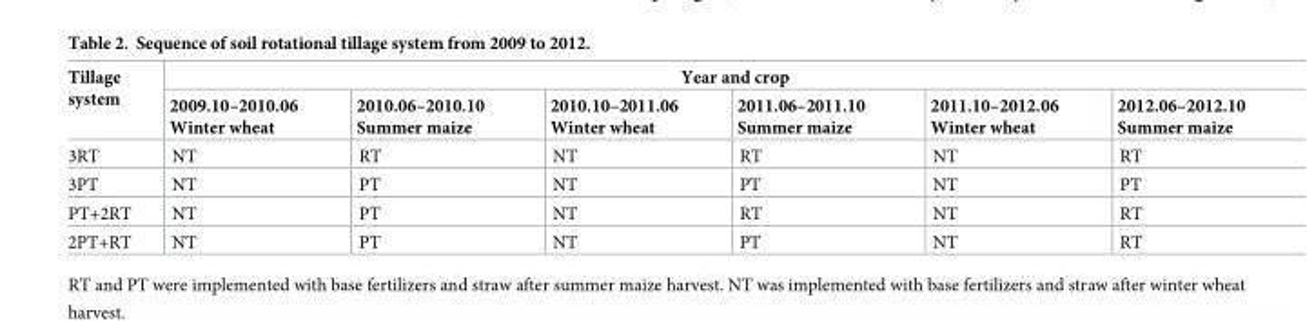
<table><thead><tr><td rowspan="2">Tillage system</td><td colspan="6">Year and crop</td></tr><tr><td>2009.10–2010.06 Winter wheat</td><td>2010.06–2010.10 Summer maize</td><td>2010.10–2011.06 Winter wheat</td><td>2011.06–2011.10 Summer maize</td><td>2011.10–2012.06 Winter wheat</td><td>2012.06–2012.10 Summer maize</td></tr></thead><tbody><tr><td>3RT</td><td>NT</td><td>RT</td><td>NT</td><td>RT</td><td>NT</td><td>RT</td></tr><tr><td>3PT</td><td>NT</td><td>PT</td><td>NT</td><td>PT</td><td>NT</td><td>PT</td></tr><tr><td>PT+2RT</td><td>NT</td><td>PT</td><td>NT</td><td>RT</td><td>NT</td><td>RT</td></tr><tr><td>2PT+RT</td><td>NT</td><td>PT</td><td>NT</td><td>PT</td><td>NT</td><td>RT</td></tr></tbody></table>